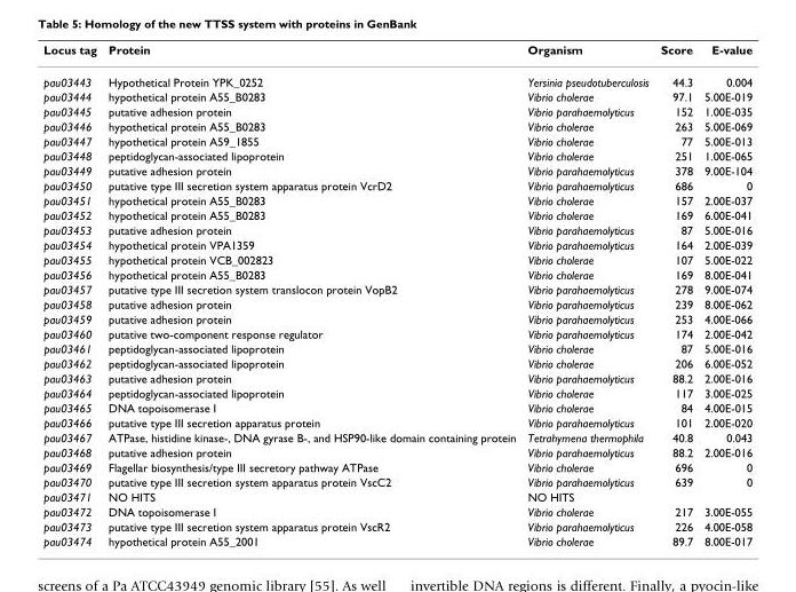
<table><thead><tr><td>Locus tag</td><td>Protein</td><td>Organism</td><td>Score</td><td>E-value</td></tr></thead><tbody><tr><td>pau03443</td><td>Hypothetical Protein YPK_0252</td><td>Yersinia pseudotuberculosis</td><td>44.3</td><td>0.004</td></tr><tr><td>pau03444</td><td>hypothetical protein A55_B0283</td><td>Vibrio cholerae</td><td>97.1</td><td>5.00E-019</td></tr><tr><td>pau03445</td><td>putative adhesion protein</td><td>Vibrio parahaemolyticus</td><td>152</td><td>1.00E-035</td></tr><tr><td>pau03446</td><td>hypothetical protein A55_B0283</td><td>Vibrio cholerae</td><td>263</td><td>5.00E-069</td></tr><tr><td>pau03447</td><td>hypothetical protein A59_1855</td><td>Vibrio cholerae</td><td>77</td><td>5.00E-013</td></tr><tr><td>pau03448</td><td>peptidoglycan-associated lipoprotein</td><td>Vibrio cholerae</td><td>251</td><td>1.00E-065</td></tr><tr><td>pau03449</td><td>putative adhesion protein</td><td>Vibrio parahaemolyticus</td><td>378</td><td>9.00E-104</td></tr><tr><td>pau03450</td><td>putative type III secretion system apparatus protein VcrD2</td><td>Vibrio parahaemolyticus</td><td>686</td><td>0</td></tr><tr><td>pau03451</td><td>hypothetical protein A55_B0283</td><td>Vibrio cholerae</td><td>157</td><td>2.00E-037</td></tr><tr><td>pau03452</td><td>hypothetical protein A55_B0283</td><td>Vibrio cholerae</td><td>169</td><td>6.00E-041</td></tr><tr><td>pau03453</td><td>putative adhesion protein</td><td>Vibrio parahaemolyticus</td><td>87</td><td>5.00E-016</td></tr><tr><td>pau03454</td><td>hypothetical protein VPA1359</td><td>Vibrio parahaemolyticus</td><td>164</td><td>2.00E-039</td></tr><tr><td>pau03455</td><td>hypothetical protein VCB_002823</td><td>Vibrio cholerae</td><td>107</td><td>5.00E-022</td></tr><tr><td>pau03456</td><td>hypothetical protein A55_B0283</td><td>Vibrio cholerae</td><td>169</td><td>8.00E-041</td></tr><tr><td>pau03457</td><td>putative type III secretion system translocon protein VopB2</td><td>Vibrio parahaemolyticus</td><td>278</td><td>9.00E-074</td></tr><tr><td>pau03458</td><td>putative adhesion protein</td><td>Vibrio parahaemolyticus</td><td>239</td><td>8.00E-062</td></tr><tr><td>pau03459</td><td>putative adhesion protein</td><td>Vibrio parahaemolyticus</td><td>253</td><td>4.00E-066</td></tr><tr><td>pau03460</td><td>putative two-component response regulator</td><td>Vibrio parahaemolyticus</td><td>174</td><td>2.00E-042</td></tr><tr><td>pau03461</td><td>peptidoglycan-associated lipoprotein</td><td>Vibrio cholerae</td><td>87</td><td>5.00E-016</td></tr><tr><td>pau03462</td><td>peptidoglycan-associated lipoprotein</td><td>Vibrio cholerae</td><td>206</td><td>6.00E-052</td></tr><tr><td>pau03463</td><td>putative adhesion protein</td><td>Vibrio parahaemolyticus</td><td>88.2</td><td>2.00E-016</td></tr><tr><td>pau03464</td><td>peptidoglycan-associated lipoprotein</td><td>Vibrio cholerae</td><td>117</td><td>3.00E-025</td></tr><tr><td>pau03465</td><td>DNA topoisomerase I</td><td>Vibrio cholerae</td><td>84</td><td>4.00E-015</td></tr><tr><td>pau03466</td><td>putative type III secretion apparatus protein</td><td>Vibrio parahaemolyticus</td><td>101</td><td>2.00E-020</td></tr><tr><td>pau03467</td><td>ATPase, histidine kinase-, DNA gyrase B-, and HSP90-like domain containing protein</td><td>Tetrahymena thermophila</td><td>40.8</td><td>0.043</td></tr><tr><td>pau03468</td><td>putative adhesion protein</td><td>Vibrio parahaemolyticus</td><td>88.2</td><td>2.00E-016</td></tr><tr><td>pau03469</td><td>Flagellar biosynthesis/type III secretory pathway ATPase</td><td>Vibrio cholerae</td><td>696</td><td>0</td></tr><tr><td>pau03470</td><td>putative type III secretion system apparatus protein VscC2</td><td>Vibrio parahaemolyticus</td><td>639</td><td>0</td></tr><tr><td>pau03471</td><td>NO HITS</td><td>NO HITS</td><td></td><td></td></tr><tr><td>pau03472</td><td>DNA topoisomerase I</td><td>Vibrio cholerae</td><td>217</td><td>3.00E-055</td></tr><tr><td>pau03473</td><td>putative type III secretion system apparatus protein VscR2</td><td>Vibrio parahaemolyticus</td><td>226</td><td>4.00E-058</td></tr><tr><td>pau03474</td><td>hypothetical protein A55_2001</td><td>Vibrio cholerae</td><td>89.7</td><td>8.00E-017</td></tr></tbody></table>